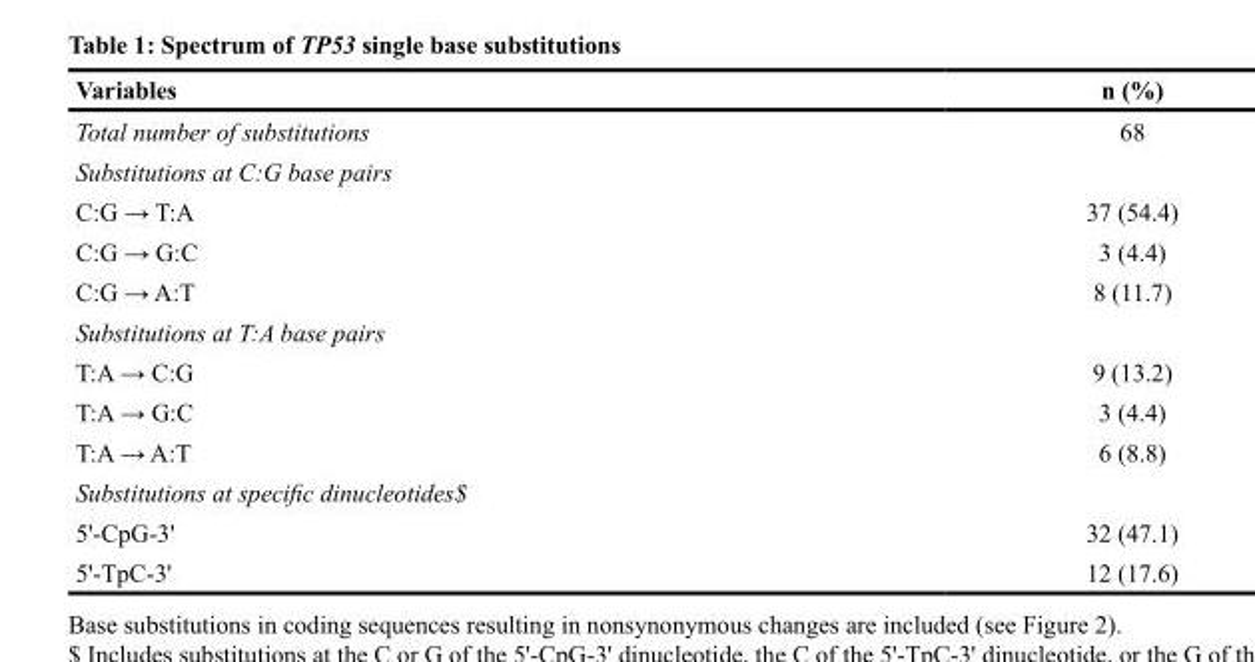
<table><thead><tr><td>Variables</td><td>n (%)</td></tr></thead><tbody><tr><td>Total number of substitutions</td><td>68</td></tr><tr><td colspan="2">Substitutions at C:G base pairs</td></tr><tr><td>C:G → T:A</td><td>37 (54.4)</td></tr><tr><td>C:G → G:C</td><td>3 (4.4)</td></tr><tr><td>C:G → A:T</td><td>8 (11.7)</td></tr><tr><td colspan="2">Substitutions at T:A base pairs</td></tr><tr><td>T:A → C:G</td><td>9 (13.2)</td></tr><tr><td>T:A → G:C</td><td>3 (4.4)</td></tr><tr><td>T:A → A:T</td><td>6 (8.8)</td></tr><tr><td colspan="2">Substitutions at specific dinucleotides$</td></tr><tr><td>5&#x27;-CpG-3&#x27;</td><td>32 (47.1)</td></tr><tr><td>5&#x27;-TpC-3&#x27;</td><td>12 (17.6)</td></tr></tbody></table>